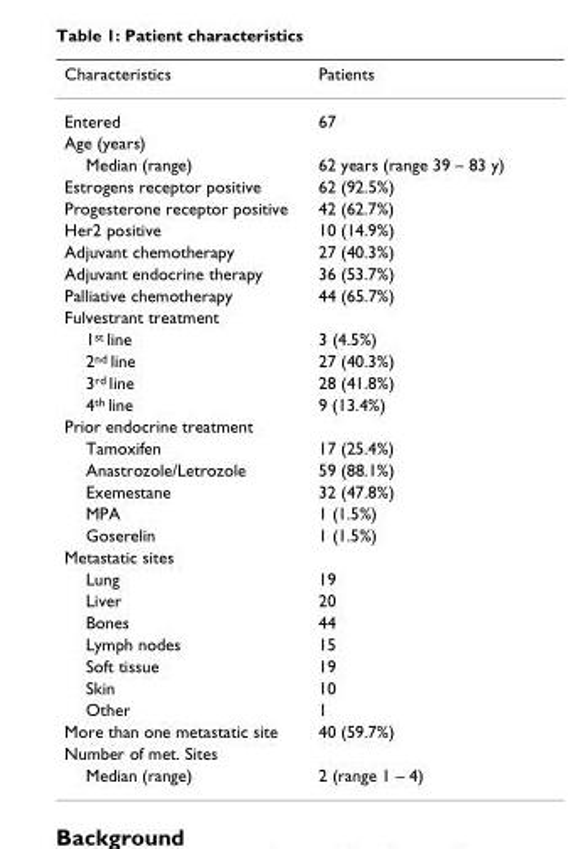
<table><thead><tr><td>Characteristics</td><td>Patients</td></tr></thead><tbody><tr><td>Entered</td><td>67</td></tr><tr><td colspan="2">Age (years)</td></tr><tr><td>Median (range)</td><td>62 years (range 39 – 83 y)</td></tr><tr><td>Estrogens receptor positive</td><td>62 (92.5%)</td></tr><tr><td>Progesterone receptor positive</td><td>42 (62.7%)</td></tr><tr><td>Her2 positive</td><td>10 (14.9%)</td></tr><tr><td>Adjuvant chemotherapy</td><td>27 (40.3%)</td></tr><tr><td>Adjuvant endocrine therapy</td><td>36 (53.7%)</td></tr><tr><td>Palliative chemotherapy</td><td>44 (65.7%)</td></tr><tr><td colspan="2">Fulvestrant treatment</td></tr><tr><td>1st line</td><td>3 (4.5%)</td></tr><tr><td>2nd line</td><td>27 (40.3%)</td></tr><tr><td>3rd line</td><td>28 (41.8%)</td></tr><tr><td>4th line</td><td>9 (13.4%)</td></tr><tr><td colspan="2">Prior endocrine treatment</td></tr><tr><td>Tamoxifen</td><td>17 (25.4%)</td></tr><tr><td>Anastrozole/Letrozole</td><td>59 (88.1%)</td></tr><tr><td>Exemestane</td><td>32 (47.8%)</td></tr><tr><td>MPA</td><td>1 (1.5%)</td></tr><tr><td>Goserelin</td><td>1 (1.5%)</td></tr><tr><td colspan="2">Metastatic sites</td></tr><tr><td>Lung</td><td>19</td></tr><tr><td>Liver</td><td>20</td></tr><tr><td>Bones</td><td>44</td></tr><tr><td>Lymph nodes</td><td>15</td></tr><tr><td>Soft tissue</td><td>19</td></tr><tr><td>Skin</td><td>10</td></tr><tr><td>Other</td><td>1</td></tr><tr><td>More than one metastatic site</td><td>40 (59.7%)</td></tr><tr><td colspan="2">Number of met. Sites</td></tr><tr><td>Median (range)</td><td>2 (range 1 – 4)</td></tr></tbody></table>